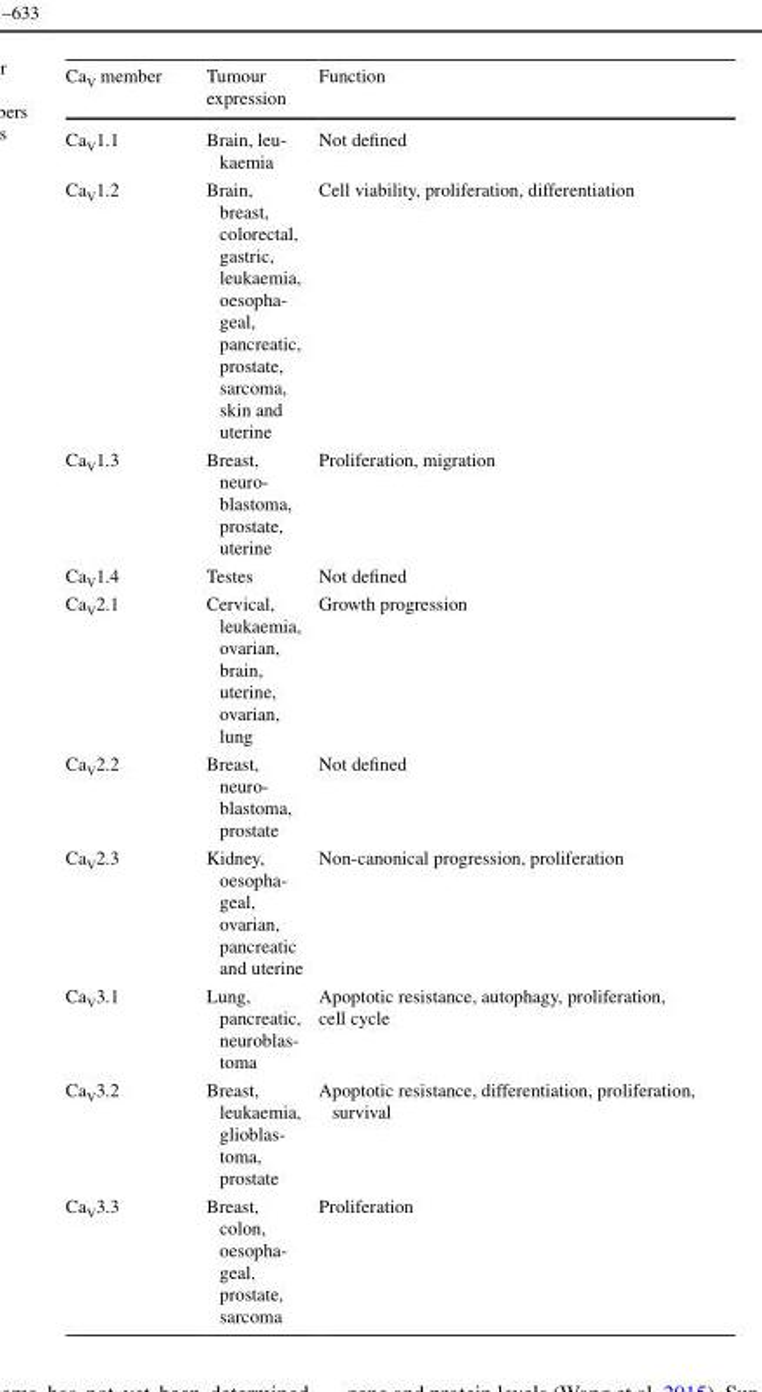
<table><thead><tr><td>Ca<sub>V</sub> member</td><td>Tumour expression</td><td>Function</td></tr></thead><tbody><tr><td>Ca<sub>V</sub>1.1</td><td>Brain, leu- kaemia</td><td>Not defined</td></tr><tr><td>Ca<sub>V</sub>1.2</td><td>Brain, breast, colorectal, gastric, leukaemia, oesopha- geal, pancreatic, prostate, sarcoma, skin and uterine</td><td>Cell viability, proliferation, differentiation</td></tr><tr><td>Ca<sub>V</sub>1.3</td><td>Breast, neuro- blastoma, prostate, uterine</td><td>Proliferation, migration</td></tr><tr><td>Ca<sub>V</sub>1.4</td><td>Testes</td><td>Not defined</td></tr><tr><td>Ca<sub>V</sub>2.1</td><td>Cervical, leukaemia, ovarian, brain, uterine, ovarian, lung</td><td>Growth progression</td></tr><tr><td>Ca<sub>V</sub>2.2</td><td>Breast, neuro- blastoma, prostate</td><td>Not defined</td></tr><tr><td>Ca<sub>V</sub>2.3</td><td>Kidney, oesopha- geal, ovarian, pancreatic and uterine</td><td>Non-canonical progression, proliferation</td></tr><tr><td>Ca<sub>V</sub>3.1</td><td>Lung, pancreatic, neuroblas- toma</td><td>Apoptotic resistance, autophagy, proliferation, cell cycle</td></tr><tr><td>Ca<sub>V</sub>3.2</td><td>Breast, leukaemia, glioblas- toma, prostate</td><td>Apoptotic resistance, differentiation, proliferation, survival</td></tr><tr><td>Ca<sub>V</sub>3.3</td><td>Breast, colon, oesopha- geal, prostate, sarcoma</td><td>Proliferation</td></tr></tbody></table>